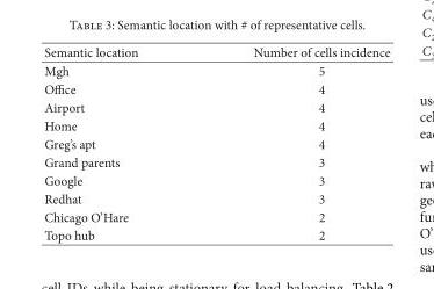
<table><thead><tr><td>Semantic location</td><td>Number of cells incidence</td></tr></thead><tbody><tr><td>Mgh</td><td>5</td></tr><tr><td>Office</td><td>4</td></tr><tr><td>Airport</td><td>4</td></tr><tr><td>Home</td><td>4</td></tr><tr><td>Greg’s apt</td><td>4</td></tr><tr><td>Grand parents</td><td>3</td></tr><tr><td>Google</td><td>3</td></tr><tr><td>Redhat</td><td>3</td></tr><tr><td>Chicago O’Hare</td><td>2</td></tr><tr><td>Topo hub</td><td>2</td></tr></tbody></table>